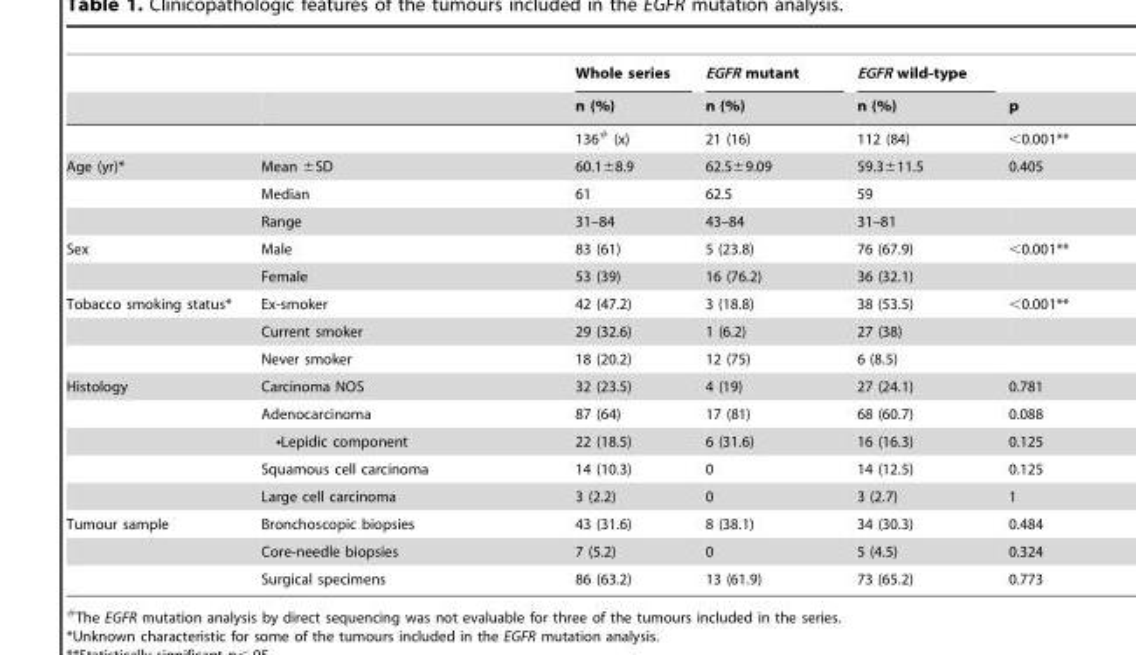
<table><thead><tr><td rowspan="2"></td><td rowspan="2"></td><td rowspan="2">Whole series n (%)</td><td rowspan="2">EGFR mutant n (%)</td><td rowspan="2">EGFR wild-type n (%)</td><td rowspan="2">p</td></tr><tr></tr></thead><tbody><tr><td></td><td></td><td>136# (x)</td><td>21 (16)</td><td>112 (84)</td><td>&lt;0.001**</td></tr><tr><td rowspan="3">Age (yr)*</td><td>Mean ±SD</td><td>60.1±8.9</td><td>62.5±9.09</td><td>59.3±11.5</td><td>0.405</td></tr><tr><td>Median</td><td>61</td><td>62.5</td><td>59</td><td></td></tr><tr><td>Range</td><td>31–84</td><td>43–84</td><td>31–81</td><td></td></tr><tr><td rowspan="2">Sex</td><td>Male</td><td>83 (61)</td><td>5 (23.8)</td><td>76 (67.9)</td><td>&lt;0.001**</td></tr><tr><td>Female</td><td>53 (39)</td><td>16 (76.2)</td><td>36 (32.1)</td><td></td></tr><tr><td rowspan="3">Tobacco smoking status*</td><td>Ex-smoker</td><td>42 (47.2)</td><td>3 (18.8)</td><td>38 (53.5)</td><td>&lt;0.001**</td></tr><tr><td>Current smoker</td><td>29 (32.6)</td><td>1 (6.2)</td><td>27 (38)</td><td></td></tr><tr><td>Never smoker</td><td>18 (20.2)</td><td>12 (75)</td><td>6 (8.5)</td><td></td></tr><tr><td rowspan="5">Histology</td><td>Carcinoma NOS</td><td>32 (23.5)</td><td>4 (19)</td><td>27 (24.1)</td><td>0.781</td></tr><tr><td>Adenocarcinoma</td><td>87 (64)</td><td>17 (81)</td><td>68 (60.7)</td><td>0.088</td></tr><tr><td>•Lepidic component</td><td>22 (18.5)</td><td>6 (31.6)</td><td>16 (16.3)</td><td>0.125</td></tr><tr><td>Squamous cell carcinoma</td><td>14 (10.3)</td><td>0</td><td>14 (12.5)</td><td>0.125</td></tr><tr><td>Large cell carcinoma</td><td>3 (2.2)</td><td>0</td><td>3 (2.7)</td><td>1</td></tr><tr><td rowspan="3">Tumour sample</td><td>Bronchoscopic biopsies</td><td>43 (31.6)</td><td>8 (38.1)</td><td>34 (30.3)</td><td>0.484</td></tr><tr><td>Core-needle biopsies</td><td>7 (5.2)</td><td>0</td><td>5 (4.5)</td><td>0.324</td></tr><tr><td>Surgical specimens</td><td>86 (63.2)</td><td>13 (61.9)</td><td>73 (65.2)</td><td>0.773</td></tr></tbody></table>